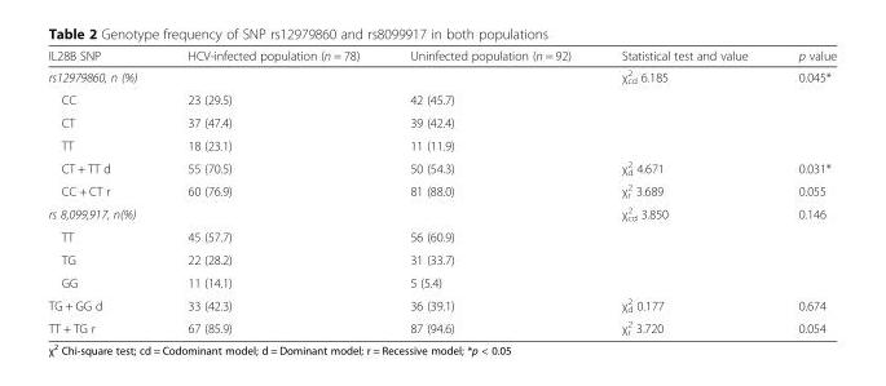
<table><thead><tr><td>IL28B SNP</td><td>HCV-infected population (n = 78)</td><td>Uninfected population (n = 92)</td><td>Statistical test and value</td><td>p value</td></tr></thead><tbody><tr><td>rs12979860, n (%)</td><td></td><td></td><td>χ<sup>2</sup> <sub>cd</sub> 6.185</td><td>0.045*</td></tr><tr><td>CC</td><td>23 (29.5)</td><td>42 (45.7)</td><td></td><td></td></tr><tr><td>CT</td><td>37 (47.4)</td><td>39 (42.4)</td><td></td><td></td></tr><tr><td>TT</td><td>18 (23.1)</td><td>11 (11.9)</td><td></td><td></td></tr><tr><td>CT + TT d</td><td>55 (70.5)</td><td>50 (54.3)</td><td>χ<sup>2</sup> <sub>d</sub> 4.671</td><td>0.031*</td></tr><tr><td>CC + CT r</td><td>60 (76.9)</td><td>81 (88.0)</td><td>χ<sup>2</sup> <sub>r</sub> 3.689</td><td>0.055</td></tr><tr><td>rs 8,099,917, n(%)</td><td></td><td></td><td>χ<sup>2</sup> <sub>cd</sub> 3.850</td><td>0.146</td></tr><tr><td>TT</td><td>45 (57.7)</td><td>56 (60.9)</td><td></td><td></td></tr><tr><td>TG</td><td>22 (28.2)</td><td>31 (33.7)</td><td></td><td></td></tr><tr><td>GG</td><td>11 (14.1)</td><td>5 (5.4)</td><td></td><td></td></tr><tr><td>TG + GG d</td><td>33 (42.3)</td><td>36 (39.1)</td><td>χ<sup>2</sup> <sub>d</sub> 0.177</td><td>0.674</td></tr><tr><td>TT + TG r</td><td>67 (85.9)</td><td>87 (94.6)</td><td>χ<sup>2</sup> <sub>r</sub> 3.720</td><td>0.054</td></tr></tbody></table>